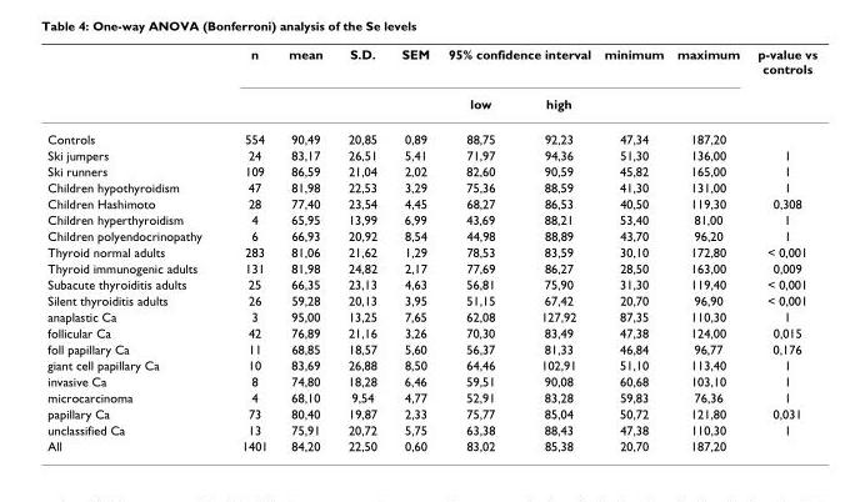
<table><thead><tr><td rowspan="2"></td><td rowspan="2">n</td><td rowspan="2">mean</td><td rowspan="2">S.D.</td><td rowspan="2">SEM</td><td colspan="2">95% confidence interval</td><td rowspan="2">minimum</td><td rowspan="2">maximum</td><td rowspan="2">p-value vs controls</td></tr><tr><td>low</td><td>high</td></tr></thead><tbody><tr><td>Controls</td><td>554</td><td>90,49</td><td>20,85</td><td>0,89</td><td>88,75</td><td>92,23</td><td>47,34</td><td>187,20</td><td></td></tr><tr><td>Ski jumpers</td><td>24</td><td>83,17</td><td>26,51</td><td>5,41</td><td>71,97</td><td>94,36</td><td>51,30</td><td>136,00</td><td>1</td></tr><tr><td>Ski runners</td><td>109</td><td>86,59</td><td>21,04</td><td>2,02</td><td>82,60</td><td>90,59</td><td>45,82</td><td>165,00</td><td>1</td></tr><tr><td>Children hypothyroidism</td><td>47</td><td>81,98</td><td>22,53</td><td>3,29</td><td>75,36</td><td>88,59</td><td>41,30</td><td>131,00</td><td>1</td></tr><tr><td>Children Hashimoto</td><td>28</td><td>77,40</td><td>23,54</td><td>4,45</td><td>68,27</td><td>86,53</td><td>40,50</td><td>119,30</td><td>0,308</td></tr><tr><td>Children hyperthyroidism</td><td>4</td><td>65,95</td><td>13,99</td><td>6,99</td><td>43,69</td><td>88,21</td><td>53,40</td><td>81,00</td><td>1</td></tr><tr><td>Children polyendocrinopathy</td><td>6</td><td>66,93</td><td>20,92</td><td>8,54</td><td>44,98</td><td>88,89</td><td>43,70</td><td>96,20</td><td>1</td></tr><tr><td>Thyroid normal adults</td><td>283</td><td>81,06</td><td>21,62</td><td>1,29</td><td>78,53</td><td>83,59</td><td>30,10</td><td>172,80</td><td>&lt; 0,001</td></tr><tr><td>Thyroid immunogenic adults</td><td>131</td><td>81,98</td><td>24,82</td><td>2,17</td><td>77,69</td><td>86,27</td><td>28,50</td><td>163,00</td><td>0,009</td></tr><tr><td>Subacute thyroiditis adults</td><td>25</td><td>66,35</td><td>23,13</td><td>4,63</td><td>56,81</td><td>75,90</td><td>31,30</td><td>119,40</td><td>&lt; 0,001</td></tr><tr><td>Silent thyroiditis adults</td><td>26</td><td>59,28</td><td>20,13</td><td>3,95</td><td>51,15</td><td>67,42</td><td>20,70</td><td>96,90</td><td>&lt; 0,001</td></tr><tr><td>anaplastic Ca</td><td>3</td><td>95,00</td><td>13,25</td><td>7,65</td><td>62,08</td><td>127,92</td><td>87,35</td><td>110,30</td><td>1</td></tr><tr><td>follicular Ca</td><td>42</td><td>76,89</td><td>21,16</td><td>3,26</td><td>70,30</td><td>83,49</td><td>47,38</td><td>124,00</td><td>0,015</td></tr><tr><td>foll papillary Ca</td><td>11</td><td>68,85</td><td>18,57</td><td>5,60</td><td>56,37</td><td>81,33</td><td>46,84</td><td>96,77</td><td>0,176</td></tr><tr><td>giant cell papillary Ca</td><td>10</td><td>83,69</td><td>26,88</td><td>8,50</td><td>64,46</td><td>102,91</td><td>51,10</td><td>113,40</td><td>1</td></tr><tr><td>invasive Ca</td><td>8</td><td>74,80</td><td>18,28</td><td>6,46</td><td>59,51</td><td>90,08</td><td>60,68</td><td>103,10</td><td>1</td></tr><tr><td>microcarcinoma</td><td>4</td><td>68,10</td><td>9,54</td><td>4,77</td><td>52,91</td><td>83,28</td><td>59,83</td><td>76,36</td><td>1</td></tr><tr><td>papillary Ca</td><td>73</td><td>80,40</td><td>19,87</td><td>2,33</td><td>75,77</td><td>85,04</td><td>50,72</td><td>121,80</td><td>0,031</td></tr><tr><td>unclassified Ca</td><td>13</td><td>75,91</td><td>20,72</td><td>5,75</td><td>63,38</td><td>88,43</td><td>47,38</td><td>110,30</td><td>1</td></tr><tr><td>All</td><td>1401</td><td>84,20</td><td>22,50</td><td>0,60</td><td>83,02</td><td>85,38</td><td>20,70</td><td>187,20</td><td></td></tr></tbody></table>